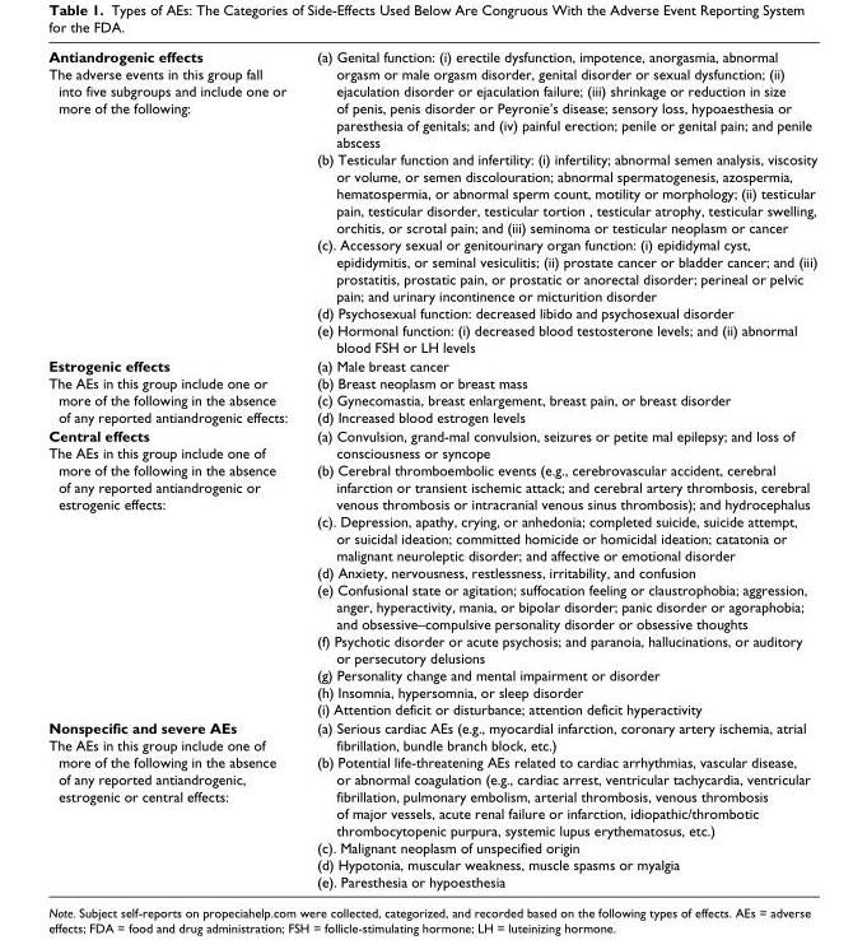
<table><tbody><tr><td>Antiandrogenic effects The adverse events in this group fall into five subgroups and include one or more of the following:</td><td>(a) Genital function: (i) erectile dysfunction, impotence, anorgasmia, abnormal orgasm or male orgasm disorder, genital disorder or sexual dysfunction; (ii) ejaculation disorder or ejaculation failure; (iii) shrinkage or reduction in size of penis, penis disorder or Peyronie’s disease; sensory loss, hypoaesthesia or paresthesia of genitals; and (iv) painful erection; penile or genital pain; and penile abscess (b) Testicular function and infertility: (i) infertility; abnormal semen analysis, viscosity or volume, or semen discolouration; abnormal spermatogenesis, azospermia, hematospermia, or abnormal sperm count, motility or morphology; (ii) testicular pain, testicular disorder, testicular tortion , testicular atrophy, testicular swelling, orchitis, or scrotal pain; and (iii) seminoma or testicular neoplasm or cancer (c). Accessory sexual or genitourinary organ function: (i) epididymal cyst, epididymitis, or seminal vesiculitis; (ii) prostate cancer or bladder cancer; and (iii) prostatitis, prostatic pain, or prostatic or anorectal disorder; perineal or pelvic pain; and urinary incontinence or micturition disorder (d) Psychosexual function: decreased libido and psychosexual disorder (e) Hormonal function: (i) decreased blood testosterone levels; and (ii) abnormal blood FSH or LH levels</td></tr><tr><td>Estrogenic effects The AEs in this group include one or more of the following in the absence of any reported antiandrogenic effects:</td><td>(a) Male breast cancer (b) Breast neoplasm or breast mass (c) Gynecomastia, breast enlargement, breast pain, or breast disorder (d) Increased blood estrogen levels</td></tr><tr><td>Central effects The AEs in this group include one of more of the following in the absence of any reported antiandrogenic or estrogenic effects:</td><td>(a) Convulsion, grand-mal convulsion, seizures or petite mal epilepsy; and loss of consciousness or syncope (b) Cerebral thromboembolic events (e.g., cerebrovascular accident, cerebral infarction or transient ischemic attack; and cerebral artery thrombosis, cerebral venous thrombosis or intracranial venous sinus thrombosis); and hydrocephalus (c). Depression, apathy, crying, or anhedonia; completed suicide, suicide attempt, or suicidal ideation; committed homicide or homicidal ideation; catatonia or malignant neuroleptic disorder; and affective or emotional disorder (d) Anxiety, nervousness, restlessness, irritability, and confusion (e) Confusional state or agitation; suffocation feeling or claustrophobia; aggression, anger, hyperactivity, mania, or bipolar disorder; panic disorder or agoraphobia; and obsessive–compulsive personality disorder or obsessive thoughts (f) Psychotic disorder or acute psychosis; and paranoia, hallucinations, or auditory or persecutory delusions (g) Personality change and mental impairment or disorder (h) Insomnia, hypersomnia, or sleep disorder (i) Attention deficit or disturbance; attention deficit hyperactivity</td></tr><tr><td>Nonspecific and severe AEs The AEs in this group include one of more of the following in the absence of any reported antiandrogenic, estrogenic or central effects:</td><td>(a) Serious cardiac AEs (e.g., myocardial infarction, coronary artery ischemia, atrial fibrillation, bundle branch block, etc.) (b) Potential life-threatening AEs related to cardiac arrhythmias, vascular disease, or abnormal coagulation (e.g., cardiac arrest, ventricular tachycardia, ventricular fibrillation, pulmonary embolism, arterial thrombosis, venous thrombosis of major vessels, acute renal failure or infarction, idiopathic/thrombotic thrombocytopenic purpura, systemic lupus erythematosus, etc.) (c). Malignant neoplasm of unspecified origin (d) Hypotonia, muscular weakness, muscle spasms or myalgia (e). Paresthesia or hypoesthesia</td></tr></tbody></table>